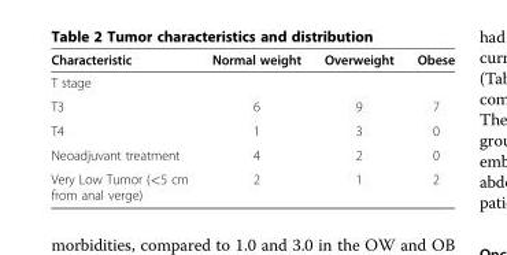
<table><thead><tr><td>Characteristic</td><td>Normal weight</td><td>Overweight</td><td>Obese</td></tr></thead><tbody><tr><td colspan="4">T stage</td></tr><tr><td>T3</td><td>6</td><td>9</td><td>7</td></tr><tr><td>T4</td><td>1</td><td>3</td><td>0</td></tr><tr><td>Neoadjuvant treatment</td><td>4</td><td>2</td><td>0</td></tr><tr><td>Very Low Tumor (&lt;5 cm from anal verge)</td><td>2</td><td>1</td><td>2</td></tr></tbody></table>